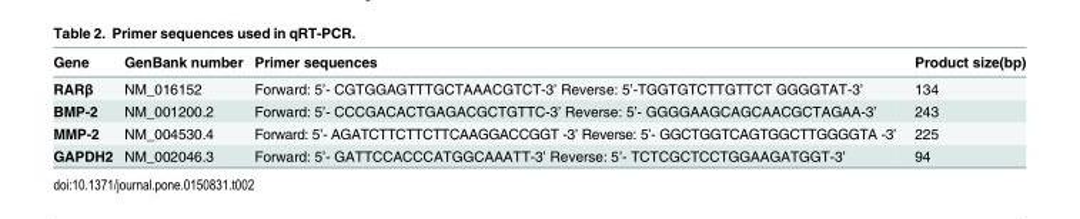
<table><thead><tr><td>Gene</td><td>GenBank number</td><td>Primer sequences</td><td>Product size(bp)</td></tr></thead><tbody><tr><td>RARβ</td><td>NM_016152</td><td>Forward: 5’- CGTGGAGTTTGCTAAACGTCT-3’ Reverse: 5’-TGGTGTCTTGTTCT GGGGTAT-3’</td><td>134</td></tr><tr><td>BMP-2</td><td>NM_001200.2</td><td>Forward: 5’- CCCGACACTGAGACGCTGTTC-3’ Reverse: 5’- GGGGAAGCAGCAACGCTAGAA-3’</td><td>243</td></tr><tr><td>MMP-2</td><td>NM_004530.4</td><td>Forward: 5’- AGATCTTCTTCTTCAAGGACCGGT -3’ Reverse: 5’- GGCTGGTCAGTGGCTTGGGGTA -3’</td><td>225</td></tr><tr><td>GAPDH2</td><td>NM_002046.3</td><td>Forward: 5’- GATTCCACCCATGGCAAATT-3’ Reverse: 5’- TCTCGCTCCTGGAAGATGGT-3’</td><td>94</td></tr></tbody></table>